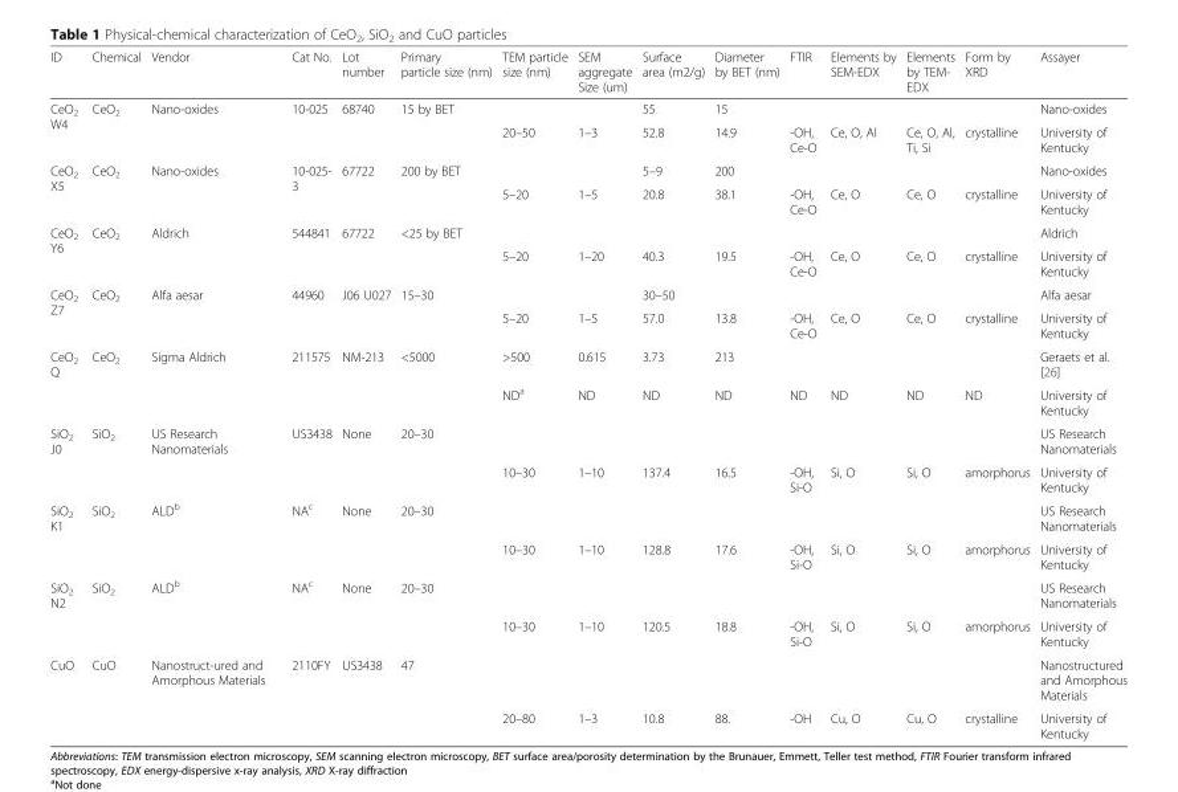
<table><thead><tr><td>ID</td><td>Chemical</td><td>Vendor</td><td>Cat No.</td><td>Lot number</td><td>Primary particle size (nm)</td><td>TEM particle size (nm)</td><td>SEM aggregate Size (um)</td><td>Surface area (m2/g)</td><td>Diameter by BET (nm)</td><td>FTIR</td><td>Elements by SEM-EDX</td><td>Elements by TEM- EDX</td><td>Form by XRD</td><td>Assayer</td></tr></thead><tbody><tr><td rowspan="2">CeO<sub>2</sub> W4</td><td rowspan="2">CeO<sub>2</sub></td><td rowspan="2">Nano-oxides</td><td rowspan="2">10-025</td><td rowspan="2">68740</td><td>15 by BET</td><td></td><td></td><td>55</td><td>15</td><td></td><td></td><td></td><td></td><td>Nano-oxides</td></tr><tr><td></td><td>20–50</td><td>1–3</td><td>52.8</td><td>14.9</td><td>-OH, Ce-O</td><td>Ce, O, Al</td><td>Ce, O, Al, Ti, Si</td><td>crystalline</td><td>University of Kentucky</td></tr><tr><td rowspan="2">CeO<sub>2</sub> X5</td><td rowspan="2">CeO<sub>2</sub></td><td rowspan="2">Nano-oxides</td><td rowspan="2">10-025- 3</td><td rowspan="2">67722</td><td>200 by BET</td><td></td><td></td><td>5–9</td><td>200</td><td></td><td></td><td></td><td></td><td>Nano-oxides</td></tr><tr><td></td><td>5–20</td><td>1–5</td><td>20.8</td><td>38.1</td><td>-OH, Ce-O</td><td>Ce, O</td><td>Ce, O</td><td>crystalline</td><td>University of Kentucky</td></tr><tr><td rowspan="2">CeO<sub>2</sub> Y6</td><td rowspan="2">CeO<sub>2</sub></td><td rowspan="2">Aldrich</td><td rowspan="2">544841</td><td rowspan="2">67722</td><td>&lt;25 by BET</td><td></td><td></td><td></td><td></td><td></td><td></td><td></td><td></td><td>Aldrich</td></tr><tr><td></td><td>5–20</td><td>1–20</td><td>40.3</td><td>19.5</td><td>-OH, Ce-O</td><td>Ce, O</td><td>Ce, O</td><td>crystalline</td><td>University of Kentucky</td></tr><tr><td rowspan="2">CeO<sub>2</sub> Z7</td><td rowspan="2">CeO<sub>2</sub></td><td rowspan="2">Alfa aesar</td><td rowspan="2">44960</td><td rowspan="2">J06 U027</td><td>15–30</td><td></td><td></td><td>30–50</td><td></td><td></td><td></td><td></td><td></td><td>Alfa aesar</td></tr><tr><td></td><td>5–20</td><td>1–5</td><td>57.0</td><td>13.8</td><td>-OH, Ce-O</td><td>Ce, O</td><td>Ce, O</td><td>crystalline</td><td>University of Kentucky</td></tr><tr><td rowspan="2">CeO<sub>2</sub> Q</td><td rowspan="2">CeO<sub>2</sub></td><td rowspan="2">Sigma Aldrich</td><td rowspan="2">211575</td><td rowspan="2">NM-213</td><td>&lt;5000</td><td>&gt;500</td><td>0.615</td><td>3.73</td><td>213</td><td></td><td></td><td></td><td></td><td>Geraets et al. [26]</td></tr><tr><td></td><td>ND<sup>a</sup></td><td>ND</td><td>ND</td><td>ND</td><td>ND</td><td>ND</td><td>ND</td><td>ND</td><td>University of Kentucky</td></tr><tr><td rowspan="2">SiO<sub>2</sub> J0</td><td rowspan="2">SiO<sub>2</sub></td><td rowspan="2">US Research Nanomaterials</td><td rowspan="2">US3438</td><td rowspan="2">None</td><td>20–30</td><td></td><td></td><td></td><td></td><td></td><td></td><td></td><td></td><td>US Research Nanomaterials</td></tr><tr><td></td><td>10–30</td><td>1–10</td><td>137.4</td><td>16.5</td><td>-OH, Si-O</td><td>Si, O</td><td>Si, O</td><td>amorphorus</td><td>University of Kentucky</td></tr><tr><td rowspan="2">SiO<sub>2</sub> K1</td><td rowspan="2">SiO<sub>2</sub></td><td rowspan="2">ALD<sup>b</sup></td><td rowspan="2">NA<sup>c</sup></td><td rowspan="2">None</td><td>20–30</td><td></td><td></td><td></td><td></td><td></td><td></td><td></td><td></td><td>US Research Nanomaterials</td></tr><tr><td></td><td>10–30</td><td>1–10</td><td>128.8</td><td>17.6</td><td>-OH, Si-O</td><td>Si, O</td><td>Si, O</td><td>amorphorus</td><td>University of Kentucky</td></tr><tr><td rowspan="2">SiO<sub>2</sub> N2</td><td rowspan="2">SiO<sub>2</sub></td><td rowspan="2">ALD<sup>b</sup></td><td rowspan="2">NA<sup>c</sup></td><td rowspan="2">None</td><td>20–30</td><td></td><td></td><td></td><td></td><td></td><td></td><td></td><td></td><td>US Research Nanomaterials</td></tr><tr><td></td><td>10–30</td><td>1–10</td><td>120.5</td><td>18.8</td><td>-OH, Si-O</td><td>Si, O</td><td>Si, O</td><td>amorphorus</td><td>University of Kentucky</td></tr><tr><td rowspan="2">CuO</td><td rowspan="2">CuO</td><td rowspan="2">Nanostruct-ured and Amorphous Materials</td><td rowspan="2">2110FY</td><td rowspan="2">US3438</td><td>47</td><td></td><td></td><td></td><td></td><td></td><td></td><td></td><td></td><td>Nanostructured and Amorphous Materials</td></tr><tr><td></td><td>20–80</td><td>1–3</td><td>10.8</td><td>88.</td><td>-OH</td><td>Cu, O</td><td>Cu, O</td><td>crystalline</td><td>University of Kentucky</td></tr></tbody></table>